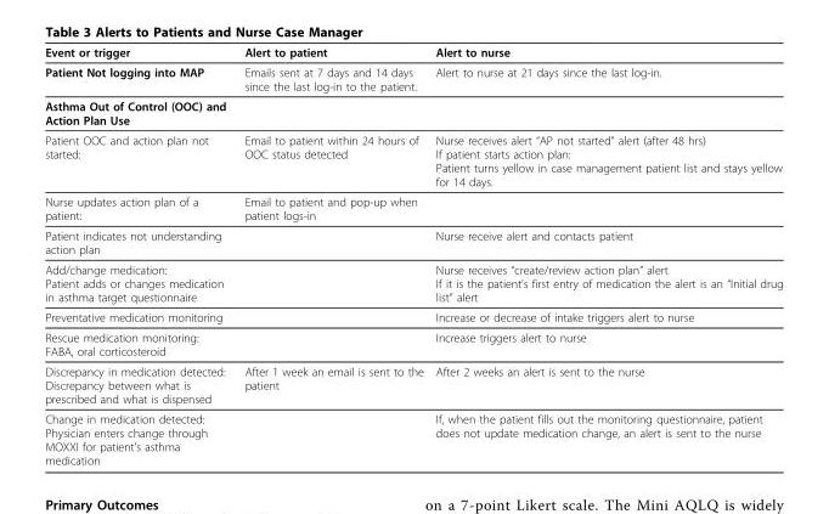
<table><thead><tr><td>Event or trigger</td><td>Alert to patient</td><td>Alert to nurse</td></tr></thead><tbody><tr><td>Patient Not logging into MAP</td><td>Emails sent at 7 days and 14 days since the last log-in to the patient.</td><td>Alert to nurse at 21 days since the last log-in.</td></tr><tr><td colspan="3">Asthma Out of Control (OOC) and Action Plan Use</td></tr><tr><td>Patient OOC and action plan not started:</td><td>Email to patient within 24 hours of OOC status detected</td><td>Nurse receives alert “AP not started” alert (after 48 hrs) If patient starts action plan: Patient turns yellow in case management patient list and stays yellow for 14 days.</td></tr><tr><td>Nurse updates action plan of a patient:</td><td>Email to patient and pop-up when patient logs-in</td><td></td></tr><tr><td>Patient indicates not understanding action plan</td><td></td><td>Nurse receive alert and contacts patient</td></tr><tr><td>Add/change medication: Patient adds or changes medication in asthma target questionnaire</td><td></td><td>Nurse receives “create/review action plan” alert If it is the patient’s first entry of medication the alert is an “Initial drug list” alert</td></tr><tr><td>Preventative medication monitoring</td><td></td><td>Increase or decrease of intake triggers alert to nurse</td></tr><tr><td>Rescue medication monitoring: FABA, oral corticosteroid</td><td></td><td>Increase triggers alert to nurse</td></tr><tr><td>Discrepancy in medication detected: Discrepancy between what is prescribed and what is dispensed</td><td>After 1 week an email is sent to the patient</td><td>After 2 weeks an alert is sent to the nurse</td></tr><tr><td>Change in medication detected: Physician enters change through MOXXI for patient’s asthma medication</td><td></td><td>If, when the patient fills out the monitoring questionnaire, patient does not update medication change, an alert is sent to the nurse</td></tr></tbody></table>